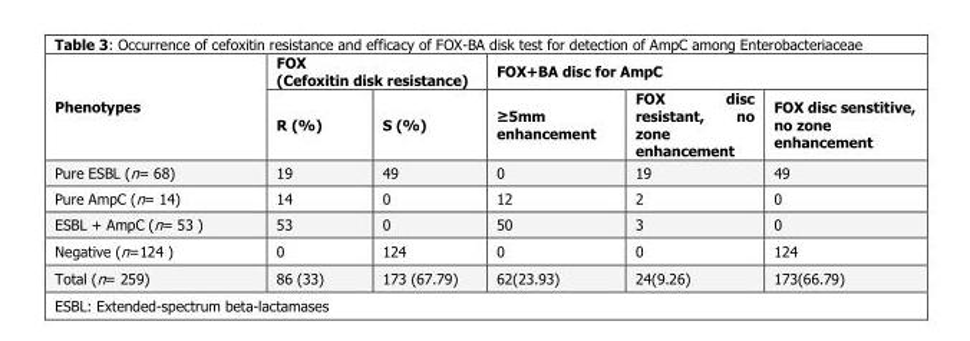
<table><thead><tr><td rowspan="2">Phenotypes</td><td colspan="2">FOX (Cefoxitin disk resistance)</td><td colspan="3">FOX+BA disc for AmpC</td></tr><tr><td>R (%)</td><td>S (%)</td><td>≥5mm enhancement</td><td>FOX disc resistant, no zone enhancement</td><td>FOX disc senstitive, no zone enhancement</td></tr></thead><tbody><tr><td>Pure ESBL (n= 68)</td><td>19</td><td>49</td><td>0</td><td>19</td><td>49</td></tr><tr><td>Pure AmpC (n= 14)</td><td>14</td><td>0</td><td>12</td><td>2</td><td>0</td></tr><tr><td>ESBL + AmpC (n= 53 )</td><td>53</td><td>0</td><td>50</td><td>3</td><td>0</td></tr><tr><td>Negative (n=124 )</td><td>0</td><td>124</td><td>0</td><td>0</td><td>124</td></tr><tr><td>Total (n= 259)</td><td>86 (33)</td><td>173 (67.79)</td><td>62(23.93)</td><td>24(9.26)</td><td>173(66.79)</td></tr></tbody></table>